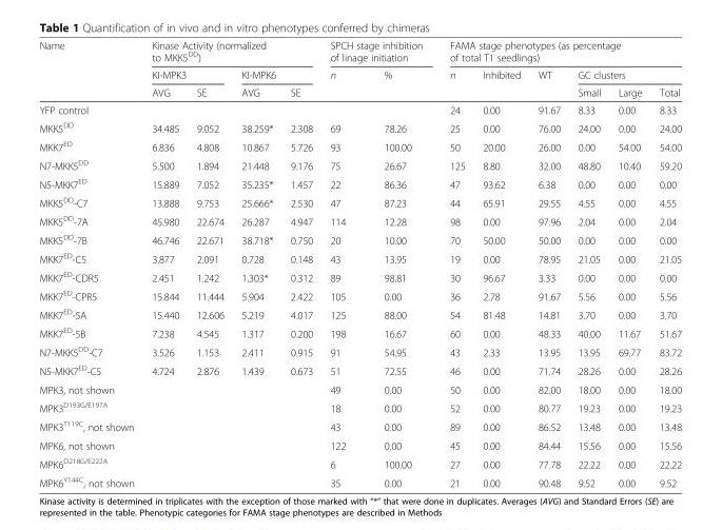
<table><thead><tr><td rowspan="3">Name</td><td colspan="4">Kinase Activity (normalized to MKK5<sup>DD</sup>)</td><td colspan="2">SPCH stage inhibition of linage initiation</td><td colspan="6">FAMA stage phenotypes (as percentage of total T1 seedlings)</td></tr><tr><td colspan="2">KI-MPK3</td><td colspan="2">KI-MPK6</td><td rowspan="2">n</td><td rowspan="2">%</td><td rowspan="2">n</td><td rowspan="2">Inhibited</td><td rowspan="2">WT</td><td colspan="3">GC clusters</td></tr><tr><td>AVG</td><td>SE</td><td>AVG</td><td>SE</td><td>Small</td><td>Large</td><td>Total</td></tr></thead><tbody><tr><td>YFP control</td><td></td><td></td><td></td><td></td><td></td><td></td><td>24</td><td>0.00</td><td>91.67</td><td>8.33</td><td>0.00</td><td>8.33</td></tr><tr><td>MKK5<sup>DD</sup></td><td>34.485</td><td>9.052</td><td>38.259*</td><td>2.308</td><td>69</td><td>78.26</td><td>25</td><td>0.00</td><td>76.00</td><td>24.00</td><td>0.00</td><td>24.00</td></tr><tr><td>MKK7<sup>ED</sup></td><td>6.836</td><td>4.808</td><td>10.867</td><td>5.726</td><td>93</td><td>100.00</td><td>50</td><td>20.00</td><td>26.00</td><td>0.00</td><td>54.00</td><td>54.00</td></tr><tr><td>N7-MKK5<sup>DD</sup></td><td>5.500</td><td>1.894</td><td>21.448</td><td>9.176</td><td>75</td><td>26.67</td><td>125</td><td>8.80</td><td>32.00</td><td>48.80</td><td>10.40</td><td>59.20</td></tr><tr><td>N5-MKK7<sup>ED</sup></td><td>15.889</td><td>7.052</td><td>35.235*</td><td>1.457</td><td>22</td><td>86.36</td><td>47</td><td>93.62</td><td>6.38</td><td>0.00</td><td>0.00</td><td>0.00</td></tr><tr><td>MKK5<sup>DD</sup>-C7</td><td>13.888</td><td>9.753</td><td>25.666*</td><td>2.530</td><td>47</td><td>87.23</td><td>44</td><td>65.91</td><td>29.55</td><td>4.55</td><td>0.00</td><td>4.55</td></tr><tr><td>MKK5<sup>DD</sup>-7A</td><td>45.980</td><td>22.674</td><td>26.287</td><td>4.947</td><td>114</td><td>12.28</td><td>98</td><td>0.00</td><td>97.96</td><td>2.04</td><td>0.00</td><td>2.04</td></tr><tr><td>MKK5<sup>DD</sup>-7B</td><td>46.746</td><td>22.671</td><td>38.718*</td><td>0.750</td><td>20</td><td>10.00</td><td>70</td><td>50.00</td><td>50.00</td><td>0.00</td><td>0.00</td><td>0.00</td></tr><tr><td>MKK7<sup>ED</sup>-C5</td><td>3.877</td><td>2.091</td><td>0.728</td><td>0.148</td><td>43</td><td>13.95</td><td>19</td><td>0.00</td><td>78.95</td><td>21.05</td><td>0.00</td><td>21.05</td></tr><tr><td>MKK7<sup>ED</sup>-CDR5</td><td>2.451</td><td>1.242</td><td>1.303*</td><td>0.312</td><td>89</td><td>98.81</td><td>30</td><td>96.67</td><td>3.33</td><td>0.00</td><td>0.00</td><td>0.00</td></tr><tr><td>MKK7<sup>ED</sup>-CPR5</td><td>15.844</td><td>11.444</td><td>5.904</td><td>2.422</td><td>105</td><td>0.00</td><td>36</td><td>2.78</td><td>91.67</td><td>5.56</td><td>0.00</td><td>5.56</td></tr><tr><td>MKK7<sup>ED</sup>-5A</td><td>15.440</td><td>12.606</td><td>5.219</td><td>4.017</td><td>125</td><td>88.00</td><td>54</td><td>81.48</td><td>14.81</td><td>3.70</td><td>0.00</td><td>3.70</td></tr><tr><td>MKK7<sup>ED</sup>-5B</td><td>7.238</td><td>4.545</td><td>1.317</td><td>0.200</td><td>198</td><td>16.67</td><td>60</td><td>0.00</td><td>48.33</td><td>40.00</td><td>11.67</td><td>51.67</td></tr><tr><td>N7-MKK5<sup>DD</sup>-C7</td><td>3.526</td><td>1.153</td><td>2.411</td><td>0.915</td><td>91</td><td>54.95</td><td>43</td><td>2.33</td><td>13.95</td><td>13.95</td><td>69.77</td><td>83.72</td></tr><tr><td>N5-MKK7<sup>ED</sup>-C5</td><td>4.724</td><td>2.876</td><td>1.439</td><td>0.673</td><td>51</td><td>72.55</td><td>46</td><td>0.00</td><td>71.74</td><td>28.26</td><td>0.00</td><td>28.26</td></tr><tr><td>MPK3, not shown</td><td></td><td></td><td></td><td></td><td>49</td><td>0.00</td><td>50</td><td>0.00</td><td>82.00</td><td>18.00</td><td>0.00</td><td>18.00</td></tr><tr><td>MPK3<sup>D193G/E197A</sup></td><td></td><td></td><td></td><td></td><td>18</td><td>0.00</td><td>52</td><td>0.00</td><td>80.77</td><td>19.23</td><td>0.00</td><td>19.23</td></tr><tr><td>MPK3<sup>T119C</sup>, not shown</td><td></td><td></td><td></td><td></td><td>43</td><td>0.00</td><td>89</td><td>0.00</td><td>86.52</td><td>13.48</td><td>0.00</td><td>13.48</td></tr><tr><td>MPK6, not shown</td><td></td><td></td><td></td><td></td><td>122</td><td>0.00</td><td>45</td><td>0.00</td><td>84.44</td><td>15.56</td><td>0.00</td><td>15.56</td></tr><tr><td>MPK6<sup>D218G/E222A</sup></td><td></td><td></td><td></td><td></td><td>6</td><td>100.00</td><td>27</td><td>0.00</td><td>77.78</td><td>22.22</td><td>0.00</td><td>22.22</td></tr><tr><td>MPK6<sup>Y144C</sup>, not shown</td><td></td><td></td><td></td><td></td><td>35</td><td>0.00</td><td>21</td><td>0.00</td><td>90.48</td><td>9.52</td><td>0.00</td><td>9.52</td></tr></tbody></table>